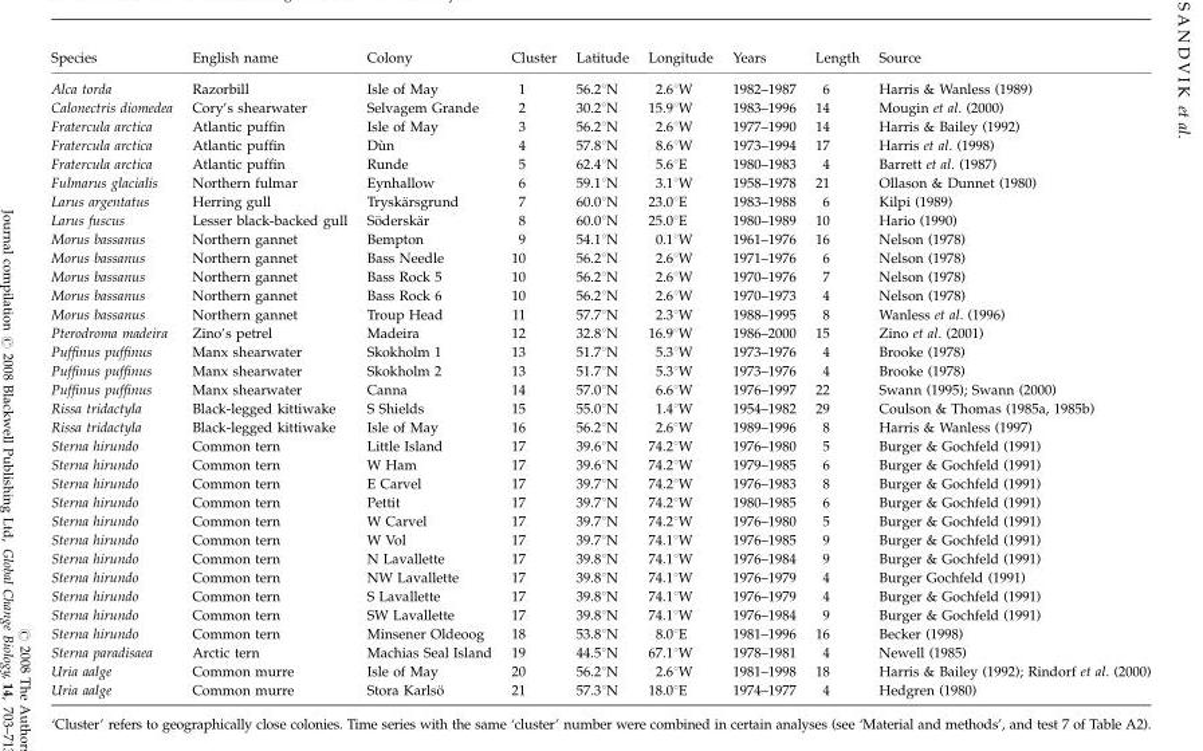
<table><thead><tr><td>Species</td><td>English name</td><td>Colony</td><td>Cluster</td><td>Latitude</td><td>Longitude</td><td>Years</td><td>Length</td><td>Source</td></tr></thead><tbody><tr><td>Alca torda</td><td>Razorbill</td><td>Isle of May</td><td>1</td><td>56.2°N</td><td>2.6°W</td><td>1982–1987</td><td>6</td><td>Harris &amp; Wanless (1989)</td></tr><tr><td>Calonectris diomedea</td><td>Cory’s shearwater</td><td>Selvagem Grande</td><td>2</td><td>30.2°N</td><td>15.9°W</td><td>1983–1996</td><td>14</td><td>Mougin et al. (2000)</td></tr><tr><td>Fratercula arctica</td><td>Atlantic puffin</td><td>Isle of May</td><td>3</td><td>56.2°N</td><td>2.6°W</td><td>1977–1990</td><td>14</td><td>Harris &amp; Bailey (1992)</td></tr><tr><td>Fratercula arctica</td><td>Atlantic puffin</td><td>Du`n</td><td>4</td><td>57.8°N</td><td>8.6°W</td><td>1973–1994</td><td>17</td><td>Harris et al. (1998)</td></tr><tr><td>Fratercula arctica</td><td>Atlantic puffin</td><td>Runde</td><td>5</td><td>62.4°N</td><td>5.6°E</td><td>1980–1983</td><td>4</td><td>Barrett et al. (1987)</td></tr><tr><td>Fulmarus glacialis</td><td>Northern fulmar</td><td>Eynhallow</td><td>6</td><td>59.1°N</td><td>3.1°W</td><td>1958–1978</td><td>21</td><td>Ollason &amp; Dunnet (1980)</td></tr><tr><td>Larus argentatus</td><td>Herring gull</td><td>Tryska¨rsgrund</td><td>7</td><td>60.0°N</td><td>23.0°E</td><td>1983–1988</td><td>6</td><td>Kilpi (1989)</td></tr><tr><td>Larus fuscus</td><td>Lesser black-backed gull</td><td>So¨derska¨r</td><td>8</td><td>60.0°N</td><td>25.0°E</td><td>1980–1989</td><td>10</td><td>Hario (1990)</td></tr><tr><td>Morus bassanus</td><td>Northern gannet</td><td>Bempton</td><td>9</td><td>54.1°N</td><td>0.1°W</td><td>1961–1976</td><td>16</td><td>Nelson (1978)</td></tr><tr><td>Morus bassanus</td><td>Northern gannet</td><td>Bass Needle</td><td>10</td><td>56.2°N</td><td>2.6°W</td><td>1971–1976</td><td>6</td><td>Nelson (1978)</td></tr><tr><td>Morus bassanus</td><td>Northern gannet</td><td>Bass Rock 5</td><td>10</td><td>56.2°N</td><td>2.6°W</td><td>1970–1976</td><td>7</td><td>Nelson (1978)</td></tr><tr><td>Morus bassanus</td><td>Northern gannet</td><td>Bass Rock 6</td><td>10</td><td>56.2°N</td><td>2.6°W</td><td>1970–1973</td><td>4</td><td>Nelson (1978)</td></tr><tr><td>Morus bassanus</td><td>Northern gannet</td><td>Troup Head</td><td>11</td><td>57.7°N</td><td>2.3°W</td><td>1988–1995</td><td>8</td><td>Wanless et al. (1996)</td></tr><tr><td>Pterodroma madeira</td><td>Zino’s petrel</td><td>Madeira</td><td>12</td><td>32.8°N</td><td>16.9°W</td><td>1986–2000</td><td>15</td><td>Zino et al. (2001)</td></tr><tr><td>Puffinus puffinus</td><td>Manx shearwater</td><td>Skokholm 1</td><td>13</td><td>51.7°N</td><td>5.3°W</td><td>1973–1976</td><td>4</td><td>Brooke (1978)</td></tr><tr><td>Puffinus puffinus</td><td>Manx shearwater</td><td>Skokholm 2</td><td>13</td><td>51.7°N</td><td>5.3°W</td><td>1973–1976</td><td>4</td><td>Brooke (1978)</td></tr><tr><td>Puffinus puffinus</td><td>Manx shearwater</td><td>Canna</td><td>14</td><td>57.0°N</td><td>6.6°W</td><td>1976–1997</td><td>22</td><td>Swann (1995); Swann (2000)</td></tr><tr><td>Rissa tridactyla</td><td>Black-legged kittiwake</td><td>S Shields</td><td>15</td><td>55.0°N</td><td>1.4°W</td><td>1954–1982</td><td>29</td><td>Coulson &amp; Thomas (1985a, 1985b)</td></tr><tr><td>Rissa tridactyla</td><td>Black-legged kittiwake</td><td>Isle of May</td><td>16</td><td>56.2°N</td><td>2.6°W</td><td>1989–1996</td><td>8</td><td>Harris &amp; Wanless (1997)</td></tr><tr><td>Sterna hirundo</td><td>Common tern</td><td>Little Island</td><td>17</td><td>39.6°N</td><td>74.2°W</td><td>1976–1980</td><td>5</td><td>Burger &amp; Gochfeld (1991)</td></tr><tr><td>Sterna hirundo</td><td>Common tern</td><td>W Ham</td><td>17</td><td>39.6°N</td><td>74.2°W</td><td>1979–1985</td><td>6</td><td>Burger &amp; Gochfeld (1991)</td></tr><tr><td>Sterna hirundo</td><td>Common tern</td><td>E Carvel</td><td>17</td><td>39.7°N</td><td>74.2°W</td><td>1976–1983</td><td>8</td><td>Burger &amp; Gochfeld (1991)</td></tr><tr><td>Sterna hirundo</td><td>Common tern</td><td>Pettit</td><td>17</td><td>39.7°N</td><td>74.2°W</td><td>1980–1985</td><td>6</td><td>Burger &amp; Gochfeld (1991)</td></tr><tr><td>Sterna hirundo</td><td>Common tern</td><td>W Carvel</td><td>17</td><td>39.7°N</td><td>74.2°W</td><td>1976–1980</td><td>5</td><td>Burger &amp; Gochfeld (1991)</td></tr><tr><td>Sterna hirundo</td><td>Common tern</td><td>W Vol</td><td>17</td><td>39.7°N</td><td>74.1°W</td><td>1976–1985</td><td>9</td><td>Burger &amp; Gochfeld (1991)</td></tr><tr><td>Sterna hirundo</td><td>Common tern</td><td>N Lavallette</td><td>17</td><td>39.8°N</td><td>74.1°W</td><td>1976–1984</td><td>9</td><td>Burger &amp; Gochfeld (1991)</td></tr><tr><td>Sterna hirundo</td><td>Common tern</td><td>NW Lavallette</td><td>17</td><td>39.8°N</td><td>74.1°W</td><td>1976–1979</td><td>4</td><td>Burger Gochfeld (1991)</td></tr><tr><td>Sterna hirundo</td><td>Common tern</td><td>S Lavallette</td><td>17</td><td>39.8°N</td><td>74.1°W</td><td>1976–1979</td><td>4</td><td>Burger &amp; Gochfeld (1991)</td></tr><tr><td>Sterna hirundo</td><td>Common tern</td><td>SW Lavallette</td><td>17</td><td>39.8°N</td><td>74.1°W</td><td>1976–1984</td><td>9</td><td>Burger &amp; Gochfeld (1991)</td></tr><tr><td>Sterna hirundo</td><td>Common tern</td><td>Minsener Oldeoog</td><td>18</td><td>53.8°N</td><td>8.0°E</td><td>1981–1996</td><td>16</td><td>Becker (1998)</td></tr><tr><td>Sterna paradisaea</td><td>Arctic tern</td><td>Machias Seal Island</td><td>19</td><td>44.5°N</td><td>67.1°W</td><td>1978–1981</td><td>4</td><td>Newell (1985)</td></tr><tr><td>Uria aalge</td><td>Common murre</td><td>Isle of May</td><td>20</td><td>56.2°N</td><td>2.6°W</td><td>1981–1998</td><td>18</td><td>Harris &amp; Bailey (1992); Rindorf et al. (2000)</td></tr><tr><td>Uria aalge</td><td>Common murre</td><td>Stora Karlso¨</td><td>21</td><td>57.3°N</td><td>18.0°E</td><td>1974–1977</td><td>4</td><td>Hedgren (1980)</td></tr></tbody></table>